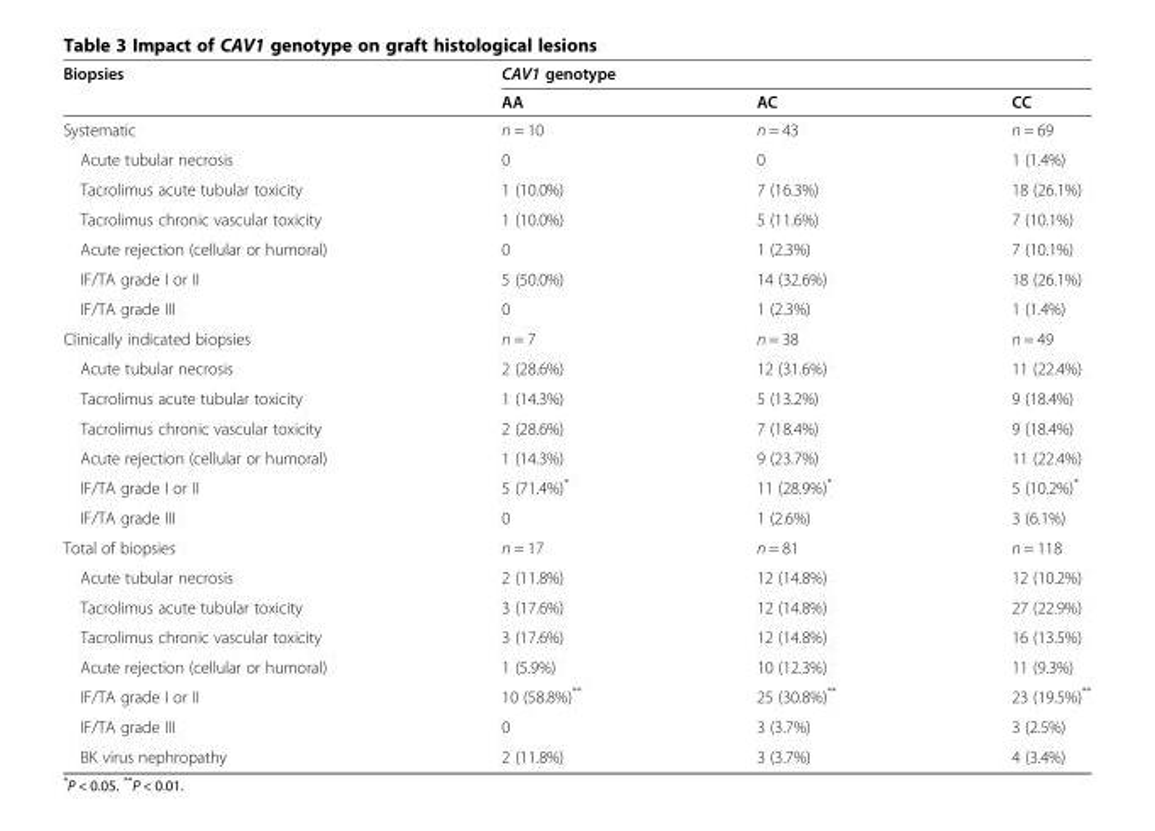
<table><thead><tr><td rowspan="2">Biopsies</td><td colspan="3">CAV1 genotype</td></tr><tr><td>AA</td><td>AC</td><td>CC</td></tr></thead><tbody><tr><td>Systematic</td><td>n = 10</td><td>n = 43</td><td>n = 69</td></tr><tr><td>Acute tubular necrosis</td><td>0</td><td>0</td><td>1 (1.4%)</td></tr><tr><td>Tacrolimus acute tubular toxicity</td><td>1 (10.0%)</td><td>7 (16.3%)</td><td>18 (26.1%)</td></tr><tr><td>Tacrolimus chronic vascular toxicity</td><td>1 (10.0%)</td><td>5 (11.6%)</td><td>7 (10.1%)</td></tr><tr><td>Acute rejection (cellular or humoral)</td><td>0</td><td>1 (2.3%)</td><td>7 (10.1%)</td></tr><tr><td>IF/TA grade I or II</td><td>5 (50.0%)</td><td>14 (32.6%)</td><td>18 (26.1%)</td></tr><tr><td>IF/TA grade III</td><td>0</td><td>1 (2.3%)</td><td>1 (1.4%)</td></tr><tr><td>Clinically indicated biopsies</td><td>n = 7</td><td>n = 38</td><td>n = 49</td></tr><tr><td>Acute tubular necrosis</td><td>2 (28.6%)</td><td>12 (31.6%)</td><td>11 (22.4%)</td></tr><tr><td>Tacrolimus acute tubular toxicity</td><td>1 (14.3%)</td><td>5 (13.2%)</td><td>9 (18.4%)</td></tr><tr><td>Tacrolimus chronic vascular toxicity</td><td>2 (28.6%)</td><td>7 (18.4%)</td><td>9 (18.4%)</td></tr><tr><td>Acute rejection (cellular or humoral)</td><td>1 (14.3%)</td><td>9 (23.7%)</td><td>11 (22.4%)</td></tr><tr><td>IF/TA grade I or II</td><td>5 (71.4%)*</td><td>11 (28.9%)*</td><td>5 (10.2%)*</td></tr><tr><td>IF/TA grade III</td><td>0</td><td>1 (2.6%)</td><td>3 (6.1%)</td></tr><tr><td>Total of biopsies</td><td>n = 17</td><td>n = 81</td><td>n = 118</td></tr><tr><td>Acute tubular necrosis</td><td>2 (11.8%)</td><td>12 (14.8%)</td><td>12 (10.2%)</td></tr><tr><td>Tacrolimus acute tubular toxicity</td><td>3 (17.6%)</td><td>12 (14.8%)</td><td>27 (22.9%)</td></tr><tr><td>Tacrolimus chronic vascular toxicity</td><td>3 (17.6%)</td><td>12 (14.8%)</td><td>16 (13.5%)</td></tr><tr><td>Acute rejection (cellular or humoral)</td><td>1 (5.9%)</td><td>10 (12.3%)</td><td>11 (9.3%)</td></tr><tr><td>IF/TA grade I or II</td><td>10 (58.8%)**</td><td>25 (30.8%)**</td><td>23 (19.5%)**</td></tr><tr><td>IF/TA grade III</td><td>0</td><td>3 (3.7%)</td><td>3 (2.5%)</td></tr><tr><td>BK virus nephropathy</td><td>2 (11.8%)</td><td>3 (3.7%)</td><td>4 (3.4%)</td></tr></tbody></table>